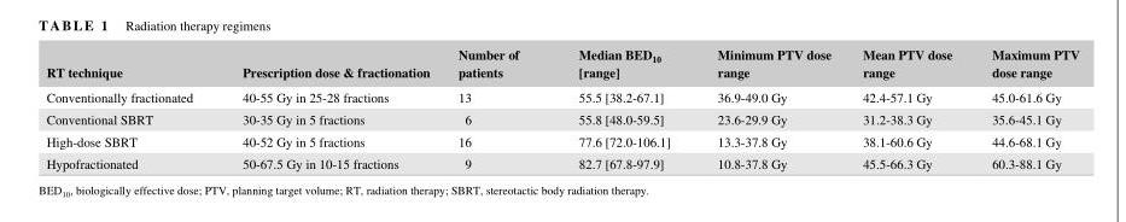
<table><thead><tr><td>RT technique</td><td>Prescription dose &amp; fractionation</td><td>Number of patients</td><td>Median BED<sub>10</sub> [range]</td><td>Minimum PTV dose range</td><td>Mean PTV dose range</td><td>Maximum PTV dose range</td></tr></thead><tbody><tr><td>Conventionally fractionated</td><td>40‐55 Gy in 25‐28 fractions</td><td>13</td><td>55.5 [38.2‐67.1]</td><td>36.9‐49.0 Gy</td><td>42.4‐57.1 Gy</td><td>45.0‐61.6 Gy</td></tr><tr><td>Conventional SBRT</td><td>30‐35 Gy in 5 fractions</td><td>6</td><td>55.8 [48.0‐59.5]</td><td>23.6‐29.9 Gy</td><td>31.2‐38.3 Gy</td><td>35.6‐45.1 Gy</td></tr><tr><td>High‐dose SBRT</td><td>40‐52 Gy in 5 fractions</td><td>16</td><td>77.6 [72.0‐106.1]</td><td>13.3‐37.8 Gy</td><td>38.1‐60.6 Gy</td><td>44.6‐68.1 Gy</td></tr><tr><td>Hypofractionated</td><td>50‐67.5 Gy in 10‐15 fractions</td><td>9</td><td>82.7 [67.8‐97.9]</td><td>10.8‐37.8 Gy</td><td>45.5‐66.3 Gy</td><td>60.3‐88.1 Gy</td></tr></tbody></table>